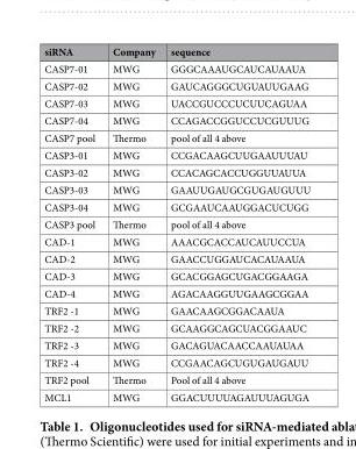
<table><thead><tr><td>siRNA</td><td>Company</td><td>sequence</td></tr></thead><tbody><tr><td>CASP7-01</td><td>MWG</td><td>GGGCAAAUGCAUCAUAAUA</td></tr><tr><td>CASP7-02</td><td>MWG</td><td>GAUCAGGGCUGUAUUGAAG</td></tr><tr><td>CASP7-03</td><td>MWG</td><td>UACCGUCCCUCUUCAGUAA</td></tr><tr><td>CASP7-04</td><td>MWG</td><td>CCAGACCGGUCCUCGUUUG</td></tr><tr><td>CASP7 pool</td><td>Thermo</td><td>pool of all 4 above</td></tr><tr><td>CASP3-01</td><td>MWG</td><td>CCGACAAGCUUGAAUUUAU</td></tr><tr><td>CASP3-02</td><td>MWG</td><td>CCACAGCACCUGGUUAUUA</td></tr><tr><td>CASP3-03</td><td>MWG</td><td>GAAUUGAUGCGUGAUGUUU</td></tr><tr><td>CASP3-04</td><td>MWG</td><td>GCGAAUCAAUGGACUCUGG</td></tr><tr><td>CASP3 pool</td><td>Thermo</td><td>pool of all 4 above</td></tr><tr><td>CAD-1</td><td>MWG</td><td>AAACGCACCAUCAUUCCUA</td></tr><tr><td>CAD-2</td><td>MWG</td><td>GAACCUGGAUCACAUAAUA</td></tr><tr><td>CAD-3</td><td>MWG</td><td>GCACGGAGCUGACGGAAGA</td></tr><tr><td>CAD-4</td><td>MWG</td><td>AGACAAGGUUGAAGCGGAA</td></tr><tr><td>TRF2 -1</td><td>MWG</td><td>GAACAAGCGGACAAUA</td></tr><tr><td>TRF2 -2</td><td>MWG</td><td>GCAAGGCAGCUACGGAAUC</td></tr><tr><td>TRF2 -3</td><td>MWG</td><td>GACAGUACAACCAAUAUAA</td></tr><tr><td>TRF2 -4</td><td>MWG</td><td>CCGAACAGCUGUGAUGAUU</td></tr><tr><td>TRF2 pool</td><td>Thermo</td><td>Pool of all 4 above</td></tr><tr><td>MCL1</td><td>MWG</td><td>GGACUUUUAGAUUUAGUGA</td></tr></tbody></table>